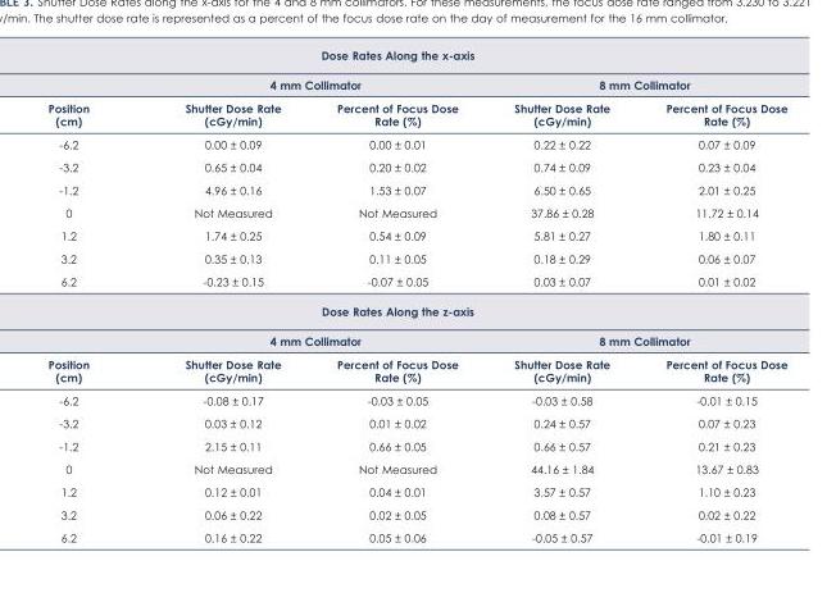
<table><tbody><tr><td colspan="5">Dose Rates Along the x-axis</td></tr><tr><td></td><td colspan="2">4 mm Collimator</td><td colspan="2">8 mm Collimator</td></tr><tr><td>Position (cm)</td><td>Shutter Dose Rate (cGy/min)</td><td>Percent of Focus Dose Rate (%)</td><td>Shutter Dose Rate (cGy/min)</td><td>Percent of Focus Dose Rate (%)</td></tr><tr><td>-6.2</td><td>0.00 ± 0.09</td><td>0.00 ± 0.01</td><td>0.22 ± 0.22</td><td>0.07 ± 0.09</td></tr><tr><td>-3.2</td><td>0.65 ± 0.04</td><td>0.20 ± 0.02</td><td>0.74 ± 0.09</td><td>0.23 ± 0.04</td></tr><tr><td>-1.2</td><td>4.96 ± 0.16</td><td>1.53 ± 0.07</td><td>6.50 ± 0.65</td><td>2.01 ± 0.25</td></tr><tr><td>0</td><td>Not Measured</td><td>Not Measured</td><td>37.86 ± 0.28</td><td>11.72 ± 0.14</td></tr><tr><td>1.2</td><td>1.74 ± 0.25</td><td>0.54 ± 0.09</td><td>5.81 ± 0.27</td><td>1.80 ± 0.11</td></tr><tr><td>3.2</td><td>0.35 ± 0.13</td><td>0.11 ± 0.05</td><td>0.18 ± 0.29</td><td>0.06 ± 0.07</td></tr><tr><td>6.2</td><td>-0.23 ± 0.15</td><td>-0.07 ± 0.05</td><td>0.03 ± 0.07</td><td>0.01 ± 0.02</td></tr><tr><td colspan="5">Dose Rates Along the z-axis</td></tr><tr><td></td><td colspan="2">4 mm Collimator</td><td colspan="2">8 mm Collimator</td></tr><tr><td>Position (cm)</td><td>Shutter Dose Rate (cGy/min)</td><td>Percent of Focus Dose Rate (%)</td><td>Shutter Dose Rate (cGy/min)</td><td>Percent of Focus Dose Rate (%)</td></tr><tr><td>-6.2</td><td>-0.08 ± 0.17</td><td>-0.03 ± 0.05</td><td>-0.03 ± 0.58</td><td>-0.01 ± 0.15</td></tr><tr><td>-3.2</td><td>0.03 ± 0.12</td><td>0.01 ± 0.02</td><td>0.24 ± 0.57</td><td>0.07 ± 0.23</td></tr><tr><td>-1.2</td><td>2.15 ± 0.11</td><td>0.66 ± 0.05</td><td>0.66 ± 0.57</td><td>0.21 ± 0.23</td></tr><tr><td>0</td><td>Not Measured</td><td>Not Measured</td><td>44.16 ± 1.84</td><td>13.67 ± 0.83</td></tr><tr><td>1.2</td><td>0.12 ± 0.01</td><td>0.04 ± 0.01</td><td>3.57 ± 0.57</td><td>1.10 ± 0.23</td></tr><tr><td>3.2</td><td>0.06 ± 0.22</td><td>0.02 ± 0.05</td><td>0.08 ± 0.57</td><td>0.02 ± 0.22</td></tr><tr><td>6.2</td><td>0.16 ± 0.22</td><td>0.05 ± 0.06</td><td>-0.05 ± 0.57</td><td>-0.01 ± 0.19</td></tr></tbody></table>